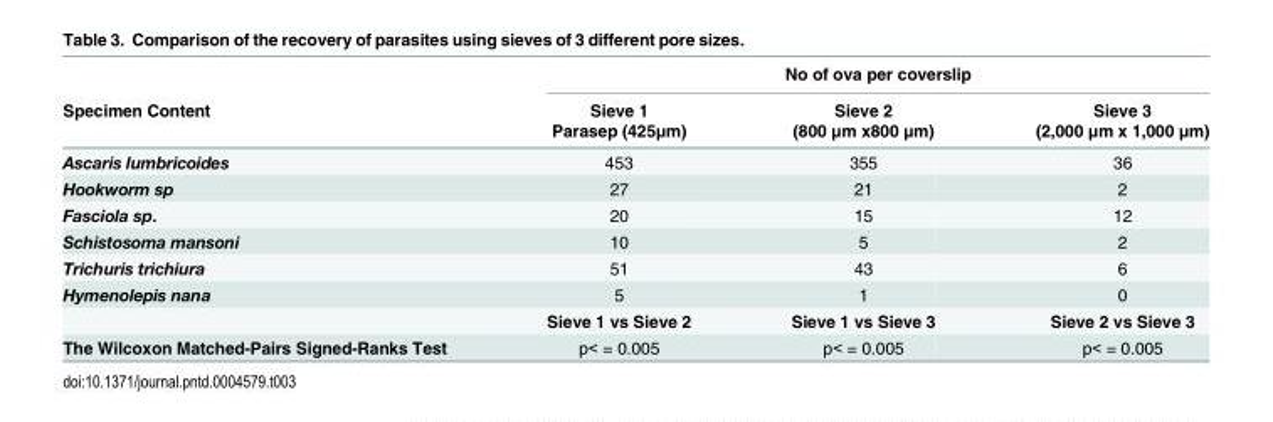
<table><thead><tr><td rowspan="3">Specimen Content</td><td colspan="3">No of ova per coverslip</td></tr><tr><td rowspan="2">Sieve 1 Parasep (425μm)</td><td rowspan="2">Sieve 2 (800 μm x800 μm)</td><td rowspan="2">Sieve 3 (2,000 μm x 1,000 μm)</td></tr><tr></tr></thead><tbody><tr><td>Ascaris lumbricoides</td><td>453</td><td>355</td><td>36</td></tr><tr><td>Hookworm sp</td><td>27</td><td>21</td><td>2</td></tr><tr><td>Fasciola sp.</td><td>20</td><td>15</td><td>12</td></tr><tr><td>Schistosoma mansoni</td><td>10</td><td>5</td><td>2</td></tr><tr><td>Trichuris trichiura</td><td>51</td><td>43</td><td>6</td></tr><tr><td rowspan="2">Hymenolepis nana</td><td>5</td><td>1</td><td>0</td></tr><tr><td>Sieve 1 vs Sieve 2</td><td>Sieve 1 vs Sieve 3</td><td>Sieve 2 vs Sieve 3</td></tr><tr><td>The Wilcoxon Matched-Pairs Signed-Ranks Test</td><td>p&lt; = 0.005</td><td>p&lt; = 0.005</td><td>p&lt; = 0.005</td></tr></tbody></table>